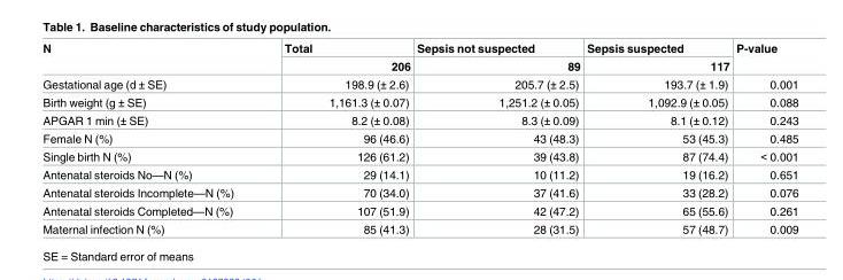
<table><thead><tr><td rowspan="2">N</td><td rowspan="2">Total 206</td><td rowspan="2">Sepsis not suspected 89</td><td rowspan="2">Sepsis suspected 117</td><td rowspan="2">P-value</td></tr><tr></tr></thead><tbody><tr><td>Gestational age (d ± SE)</td><td>198.9 (± 2.6)</td><td>205.7 (± 2.5)</td><td>193.7 (± 1.9)</td><td>0.001</td></tr><tr><td>Birth weight (g ± SE)</td><td>1,161.3 (± 0.07)</td><td>1,251.2 (± 0.05)</td><td>1,092.9 (± 0.05)</td><td>0.088</td></tr><tr><td>APGAR 1 min (± SE)</td><td>8.2 (± 0.08)</td><td>8.3 (± 0.09)</td><td>8.1 (± 0.12)</td><td>0.243</td></tr><tr><td>Female N (%)</td><td>96 (46.6)</td><td>43 (48.3)</td><td>53 (45.3)</td><td>0.485</td></tr><tr><td>Single birth N (%)</td><td>126 (61.2)</td><td>39 (43.8)</td><td>87 (74.4)</td><td>&lt; 0.001</td></tr><tr><td>Antenatal steroids No—N (%)</td><td>29 (14.1)</td><td>10 (11.2)</td><td>19 (16.2)</td><td>0.651</td></tr><tr><td>Antenatal steroids Incomplete—N (%)</td><td>70 (34.0)</td><td>37 (41.6)</td><td>33 (28.2)</td><td>0.076</td></tr><tr><td>Antenatal steroids Completed—N (%)</td><td>107 (51.9)</td><td>42 (47.2)</td><td>65 (55.6)</td><td>0.261</td></tr><tr><td>Maternal infection N (%)</td><td>85 (41.3)</td><td>28 (31.5)</td><td>57 (48.7)</td><td>0.009</td></tr></tbody></table>